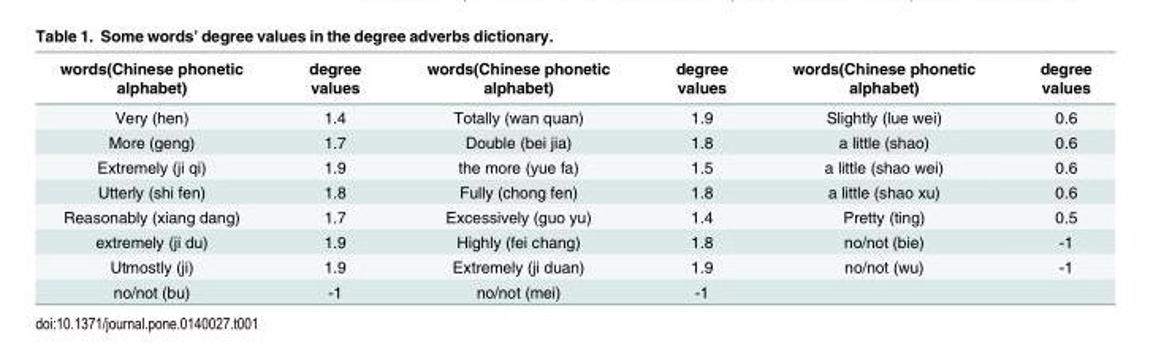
<table><thead><tr><td>words(Chinese phonetic alphabet)</td><td>degree values</td><td>words(Chinese phonetic alphabet)</td><td>degree values</td><td>words(Chinese phonetic alphabet)</td><td>degree values</td></tr></thead><tbody><tr><td>Very (hen)</td><td>1.4</td><td>Totally (wan quan)</td><td>1.9</td><td>Slightly (lue wei)</td><td>0.6</td></tr><tr><td>More (geng)</td><td>1.7</td><td>Double (bei jia)</td><td>1.8</td><td>a little (shao)</td><td>0.6</td></tr><tr><td>Extremely (ji qi)</td><td>1.9</td><td>the more (yue fa)</td><td>1.5</td><td>a little (shao wei)</td><td>0.6</td></tr><tr><td>Utterly (shi fen)</td><td>1.8</td><td>Fully (chong fen)</td><td>1.8</td><td>a little (shao xu)</td><td>0.6</td></tr><tr><td>Reasonably (xiang dang)</td><td>1.7</td><td>Excessively (guo yu)</td><td>1.4</td><td>Pretty (ting)</td><td>0.5</td></tr><tr><td>extremely (ji du)</td><td>1.9</td><td>Highly (fei chang)</td><td>1.8</td><td>no/not (bie)</td><td>-1</td></tr><tr><td>Utmostly (ji)</td><td>1.9</td><td>Extremely (ji duan)</td><td>1.9</td><td>no/not (wu)</td><td>-1</td></tr><tr><td>no/not (bu)</td><td>-1</td><td>no/not (mei)</td><td>-1</td><td></td><td></td></tr></tbody></table>